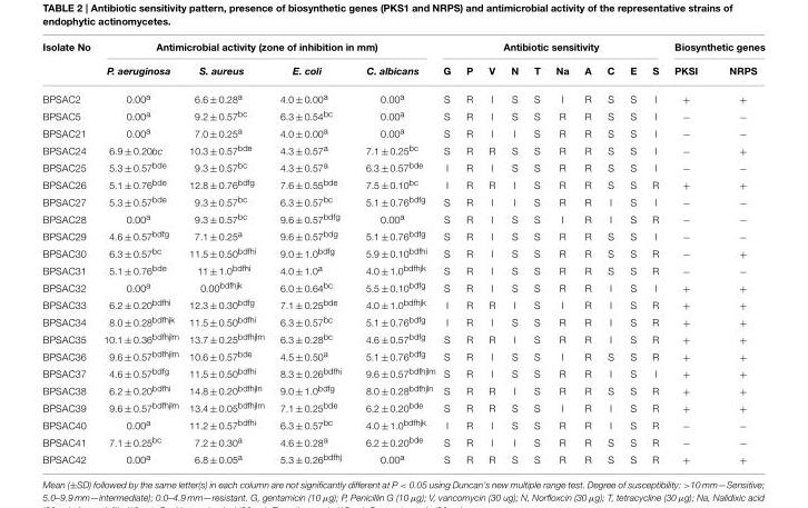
<table><thead><tr><td rowspan="2">Isolate No</td><td colspan="4">Antimicrobial activity (zone of inhibition in mm)</td><td colspan="10">Antibiotic sensitivity</td><td colspan="2">Biosynthetic genes</td></tr><tr><td>P. aeruginosa</td><td>S. aureus</td><td>E. coli</td><td>C. albicans</td><td>G</td><td>P</td><td>V</td><td>N</td><td>T</td><td>Na</td><td>A</td><td>C</td><td>E</td><td>S</td><td>PKSI</td><td>NRPS</td></tr></thead><tbody><tr><td>BPSAC2</td><td>0.00<sup>a</sup></td><td>6.6 ± 0.28<sup>a</sup></td><td>4.0 ± 0.00<sup>a</sup></td><td>0.00<sup>a</sup></td><td>S</td><td>R</td><td>I</td><td>S</td><td>S</td><td>I</td><td>R</td><td>S</td><td>S</td><td>I</td><td>+</td><td>+</td></tr><tr><td>BPSAC5</td><td>0.00<sup>a</sup></td><td>9.2 ± 0.57<sup>bc</sup></td><td>6.3 ± 0.54<sup>bc</sup></td><td>0.00<sup>a</sup></td><td>S</td><td>R</td><td>I</td><td>S</td><td>S</td><td>R</td><td>R</td><td>S</td><td>S</td><td>I</td><td>−</td><td>−</td></tr><tr><td>BPSAC21</td><td>0.00<sup>a</sup></td><td>7.0 ± 0.25<sup>a</sup></td><td>4.0 ± 0.00<sup>a</sup></td><td>0.00<sup>a</sup></td><td>S</td><td>R</td><td>I</td><td>I</td><td>S</td><td>R</td><td>R</td><td>S</td><td>S</td><td>I</td><td>−</td><td>−</td></tr><tr><td>BPSAC24</td><td>6.9 ± 0.20bc</td><td>10.3 ± 0.57<sup>bde</sup></td><td>4.3 ± 0.57<sup>a</sup></td><td>7.1 ± 0.25<sup>bc</sup></td><td>S</td><td>R</td><td>R</td><td>S</td><td>S</td><td>R</td><td>R</td><td>S</td><td>S</td><td>I</td><td>−</td><td>+</td></tr><tr><td>BPSAC25</td><td>5.3 ± 0.57<sup>bde</sup></td><td>9.3 ± 0.57<sup>bc</sup></td><td>4.3 ± 0.57<sup>a</sup></td><td>6.3 ± 0.57<sup>bde</sup></td><td>I</td><td>R</td><td>I</td><td>S</td><td>S</td><td>R</td><td>R</td><td>S</td><td>S</td><td>I</td><td>−</td><td>−</td></tr><tr><td>BPSAC26</td><td>5.1 ± 0.76<sup>bde</sup></td><td>12.8 ± 0.76<sup>bdfg</sup></td><td>7.6 ± 0.55<sup>bde</sup></td><td>7.5 ± 0.10<sup>bc</sup></td><td>I</td><td>R</td><td>R</td><td>I</td><td>S</td><td>R</td><td>R</td><td>S</td><td>S</td><td>R</td><td>+</td><td>+</td></tr><tr><td>BPSAC27</td><td>5.3 ± 0.57<sup>bde</sup></td><td>9.3 ± 0.57<sup>bc</sup></td><td>6.3 ± 0.57<sup>bc</sup></td><td>5.1 ± 0.76<sup>bdfg</sup></td><td>S</td><td>R</td><td>I</td><td>I</td><td>S</td><td>R</td><td>R</td><td>I</td><td>S</td><td>I</td><td>−</td><td>−</td></tr><tr><td>BPSAC28</td><td>0.00<sup>a</sup></td><td>9.3 ± 0.57<sup>bc</sup></td><td>9.6 ± 0.57<sup>bdfg</sup></td><td>0.00<sup>a</sup></td><td>S</td><td>R</td><td>I</td><td>S</td><td>S</td><td>I</td><td>R</td><td>I</td><td>S</td><td>R</td><td>−</td><td>−</td></tr><tr><td>BPSAC29</td><td>4.6 ± 0.57<sup>bdfg</sup></td><td>7.1 ± 0.25<sup>a</sup></td><td>9.6 ± 0.57<sup>bdg</sup></td><td>5.1 ± 0.76<sup>bdfg</sup></td><td>S</td><td>R</td><td>I</td><td>S</td><td>S</td><td>R</td><td>R</td><td>S</td><td>S</td><td>I</td><td>−</td><td>−</td></tr><tr><td>BPSAC30</td><td>6.3 ± 0.57<sup>bc</sup></td><td>11.5 ± 0.50<sup>bdfhi</sup></td><td>9.0 ± 1.0<sup>bdfg</sup></td><td>5.9 ± 0.10<sup>bdfhi</sup></td><td>S</td><td>R</td><td>I</td><td>S</td><td>S</td><td>R</td><td>R</td><td>S</td><td>S</td><td>R</td><td>−</td><td>+</td></tr><tr><td>BPSAC31</td><td>5.1 ± 0.76<sup>bde</sup></td><td>11 ± 1.0<sup>bdfhi</sup></td><td>4.0 ± 1.0<sup>a</sup></td><td>4.0 ± 1.0<sup>bdfhjk</sup></td><td>S</td><td>R</td><td>I</td><td>S</td><td>S</td><td>R</td><td>R</td><td>S</td><td>S</td><td>R</td><td>−</td><td>−</td></tr><tr><td>BPSAC32</td><td>0.00<sup>a</sup></td><td>0.00<sup>bdfhjk</sup></td><td>6.0 ± 0.64<sup>bc</sup></td><td>5.5 ± 0.10<sup>bdfg</sup></td><td>S</td><td>R</td><td>I</td><td>S</td><td>S</td><td>R</td><td>R</td><td>I</td><td>S</td><td>I</td><td>+</td><td>+</td></tr><tr><td>BPSAC33</td><td>6.2 ± 0.20<sup>bdfhi</sup></td><td>12.3 ± 0.30<sup>bdfg</sup></td><td>7.1 ± 0.25<sup>bde</sup></td><td>4.0 ± 1.0<sup>bdfhjk</sup></td><td>I</td><td>R</td><td>R</td><td>I</td><td>S</td><td>I</td><td>R</td><td>I</td><td>S</td><td>R</td><td>+</td><td>+</td></tr><tr><td>BPSAC34</td><td>8.0 ± 0.28<sup>bdfhjk</sup></td><td>11.5 ± 0.50<sup>bdfhi</sup></td><td>6.3 ± 0.57<sup>bc</sup></td><td>5.1 ± 0.76<sup>bdfg</sup></td><td>I</td><td>R</td><td>I</td><td>S</td><td>S</td><td>R</td><td>R</td><td>I</td><td>S</td><td>R</td><td>+</td><td>+</td></tr><tr><td>BPSAC35</td><td>10.1 ± 0.36<sup>bdfhjlm</sup></td><td>13.7 ± 0.25<sup>bdfhjlm</sup></td><td>6.3 ± 0.28<sup>bc</sup></td><td>4.6 ± 0.57<sup>bdfg</sup></td><td>S</td><td>R</td><td>R</td><td>I</td><td>S</td><td>R</td><td>R</td><td>I</td><td>S</td><td>R</td><td>+</td><td>+</td></tr><tr><td>BPSAC36</td><td>9.6 ± 0.57<sup>bdfhjlm</sup></td><td>10.6 ± 0.57<sup>bde</sup></td><td>4.5 ± 0.50<sup>a</sup></td><td>5.1 ± 0.76<sup>bdfg</sup></td><td>S</td><td>R</td><td>I</td><td>S</td><td>S</td><td>I</td><td>R</td><td>S</td><td>S</td><td>R</td><td>+</td><td>+</td></tr><tr><td>BPSAC37</td><td>4.6 ± 0.57<sup>bdfg</sup></td><td>11.5 ± 0.50<sup>bdfhi</sup></td><td>8.3 ± 0.26<sup>bdfhi</sup></td><td>9.6 ± 0.57<sup>bdfhjlm</sup></td><td>S</td><td>R</td><td>I</td><td>S</td><td>S</td><td>R</td><td>R</td><td>I</td><td>S</td><td>I</td><td>+</td><td>+</td></tr><tr><td>BPSAC38</td><td>6.2 ± 0.20<sup>bdfhi</sup></td><td>14.8 ± 0.20<sup>bdfhjln</sup></td><td>9.0 ± 1.0<sup>bdfg</sup></td><td>8.0 ± 0.28<sup>bdfhjln</sup></td><td>S</td><td>R</td><td>R</td><td>I</td><td>S</td><td>R</td><td>R</td><td>S</td><td>S</td><td>R</td><td>+</td><td>+</td></tr><tr><td>BPSAC39</td><td>9.6 ± 0.57<sup>bdfhjlm</sup></td><td>13.4 ± 0.05<sup>bdfhjlm</sup></td><td>7.1 ± 0.25<sup>bde</sup></td><td>6.2 ± 0.20<sup>bde</sup></td><td>S</td><td>R</td><td>R</td><td>S</td><td>S</td><td>I</td><td>R</td><td>I</td><td>S</td><td>R</td><td>+</td><td>+</td></tr><tr><td>BPSAC40</td><td>0.00<sup>a</sup></td><td>11.2 ± 0.57<sup>bdfhi</sup></td><td>6.3 ± 0.57<sup>bc</sup></td><td>4.0 ± 1.0<sup>bdfhjk</sup></td><td>I</td><td>R</td><td>I</td><td>S</td><td>S</td><td>R</td><td>R</td><td>I</td><td>S</td><td>R</td><td>−</td><td>−</td></tr><tr><td>BPSAC41</td><td>7.1 ± 0.25<sup>bc</sup></td><td>7.2 ± 0.30<sup>a</sup></td><td>4.6 ± 0.28<sup>a</sup></td><td>6.2 ± 0.20<sup>bde</sup></td><td>S</td><td>R</td><td>I</td><td>I</td><td>S</td><td>R</td><td>R</td><td>S</td><td>S</td><td>R</td><td>−</td><td>−</td></tr><tr><td>BPSAC42</td><td>0.00<sup>a</sup></td><td>6.8 ± 0.05<sup>a</sup></td><td>5.3 ± 0.26<sup>bdfhj</sup></td><td>0.00<sup>a</sup></td><td>S</td><td>R</td><td>R</td><td>S</td><td>S</td><td>R</td><td>R</td><td>S</td><td>S</td><td>R</td><td>+</td><td>+</td></tr></tbody></table>